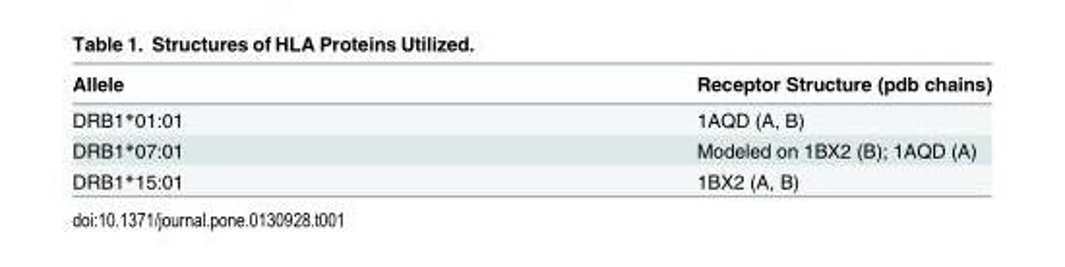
<table><thead><tr><td>Allele</td><td>Receptor Structure (pdb chains)</td></tr></thead><tbody><tr><td>DRB1*01:01</td><td>1AQD (A, B)</td></tr><tr><td>DRB1*07:01</td><td>Modeled on 1BX2 (B); 1AQD (A)</td></tr><tr><td>DRB1*15:01</td><td>1BX2 (A, B)</td></tr></tbody></table>